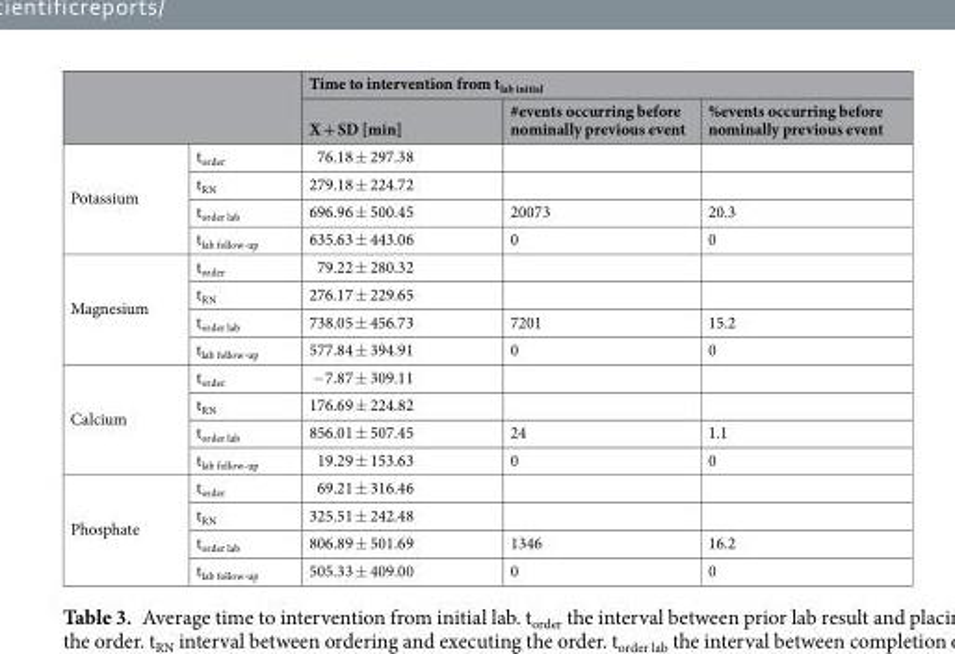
<table><thead><tr><td rowspan="2"></td><td rowspan="2"></td><td colspan="3">Time to intervention from t<sub>lab initial</sub></td></tr><tr><td>X + SD [min]</td><td>#events occurring before nominally previous event</td><td>%events occurring before nominally previous event</td></tr></thead><tbody><tr><td rowspan="4">Potassium</td><td>t<sub>order</sub></td><td>76.18 ± 297.38</td><td></td><td></td></tr><tr><td>t<sub>RN</sub></td><td>279.18 ± 224.72</td><td></td><td></td></tr><tr><td>t<sub>order lab</sub></td><td>696.96 ± 500.45</td><td>20073</td><td>20.3</td></tr><tr><td>t<sub>lab follow-up</sub></td><td>635.63 ± 443.06</td><td>0</td><td>0</td></tr><tr><td rowspan="4">Magnesium</td><td>t<sub>order</sub></td><td>79.22 ± 280.32</td><td></td><td></td></tr><tr><td>t<sub>RN</sub></td><td>276.17 ± 229.65</td><td></td><td></td></tr><tr><td>t<sub>order lab</sub></td><td>738.05 ± 456.73</td><td>7201</td><td>15.2</td></tr><tr><td>t<sub>lab follow-up</sub></td><td>577.84 ± 394.91</td><td>0</td><td>0</td></tr><tr><td rowspan="4">Calcium</td><td>t<sub>order</sub></td><td>−7.87 ± 309.11</td><td></td><td></td></tr><tr><td>t<sub>RN</sub></td><td>176.69 ± 224.82</td><td></td><td></td></tr><tr><td>t<sub>order lab</sub></td><td>856.01 ± 507.45</td><td>24</td><td>1.1</td></tr><tr><td>t<sub>lab follow-up</sub></td><td>19.29 ± 153.63</td><td>0</td><td>0</td></tr><tr><td rowspan="4">Phosphate</td><td>t<sub>order</sub></td><td>69.21 ± 316.46</td><td></td><td></td></tr><tr><td>t<sub>RN</sub></td><td>325.51 ± 242.48</td><td></td><td></td></tr><tr><td>t<sub>order lab</sub></td><td>806.89 ± 501.69</td><td>1346</td><td>16.2</td></tr><tr><td>t<sub>lab follow-up</sub></td><td>505.33 ± 409.00</td><td>0</td><td>0</td></tr></tbody></table>